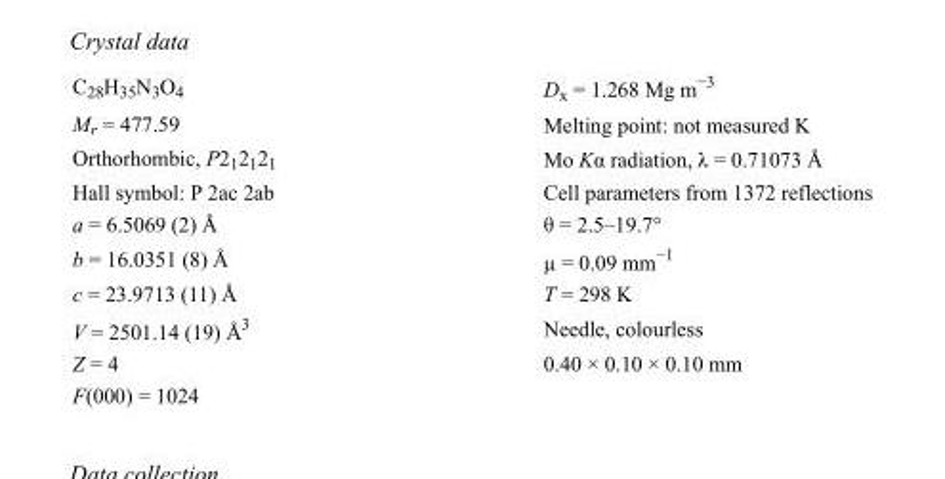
<table><tbody><tr><td>C<sub>28</sub>H<sub>35</sub>N<sub>3</sub>O<sub>4</sub></td><td>D<sub>x</sub> = 1.268 Mg m<sup>−3</sup></td></tr><tr><td>M<sub>r</sub> = 477.59</td><td>Melting point: not measured K</td></tr><tr><td>Orthorhombic, P2<sub>1</sub>2<sub>1</sub>2<sub>1</sub></td><td>Mo Kα radiation, λ = 0.71073 Å</td></tr><tr><td>Hall symbol: P 2ac 2ab</td><td>Cell parameters from 1372 reflections</td></tr><tr><td>a = 6.5069 (2) Å</td><td>θ = 2.5–19.7°</td></tr><tr><td>b = 16.0351 (8) Å</td><td>µ = 0.09 mm<sup>−1</sup></td></tr><tr><td>c = 23.9713 (11) Å</td><td>T = 298 K</td></tr><tr><td>V = 2501.14 (19) Å<sup>3</sup></td><td>Needle, colourless</td></tr><tr><td>Z = 4</td><td>0.40 × 0.10 × 0.10 mm</td></tr><tr><td>F(000) = 1024</td><td></td></tr></tbody></table>